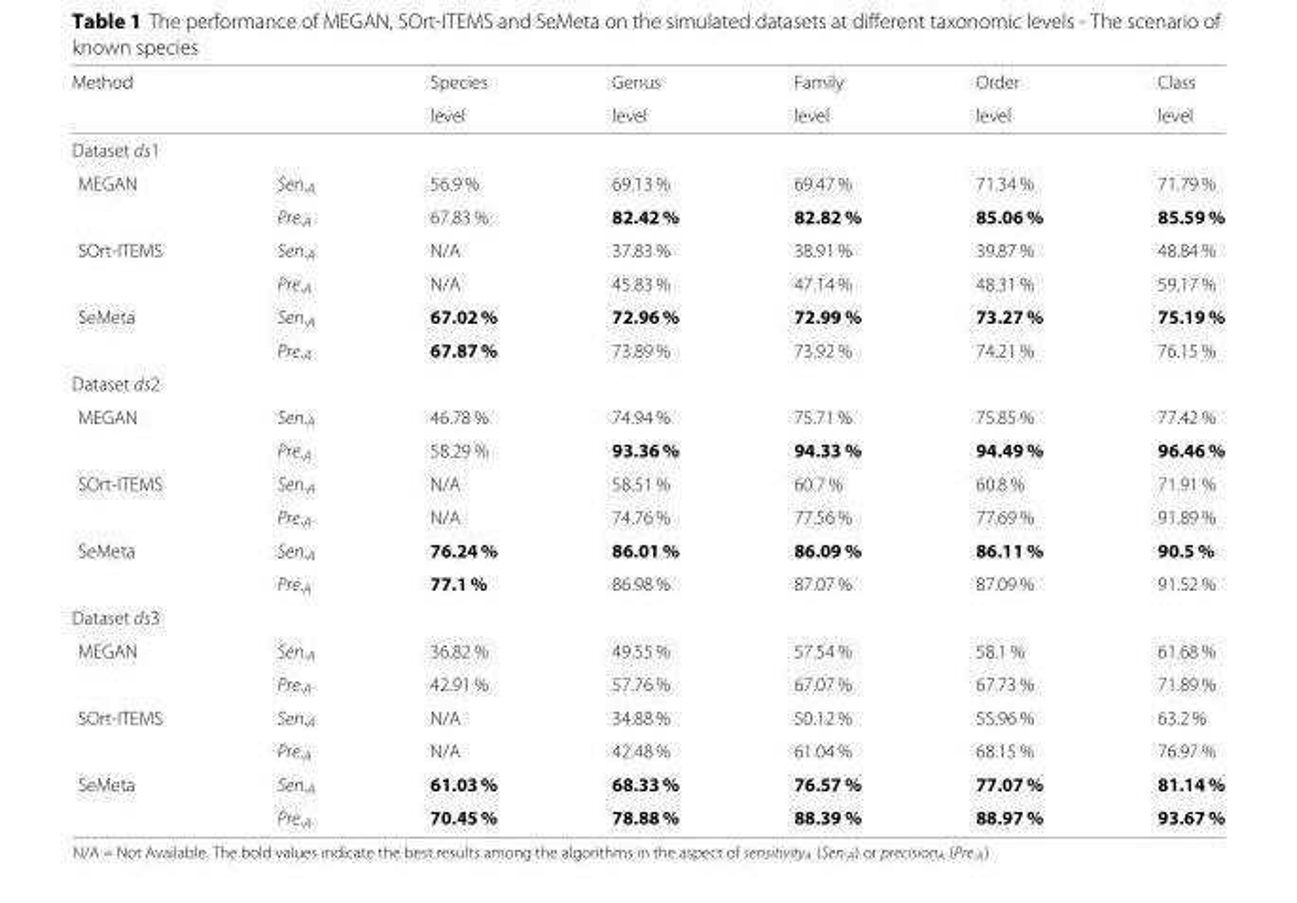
<table><thead><tr><td rowspan="2">Method</td><td rowspan="2"></td><td rowspan="2">Species level</td><td rowspan="2">Genus level</td><td rowspan="2">Family level</td><td rowspan="2">Order level</td><td rowspan="2">Class level</td></tr><tr></tr></thead><tbody><tr><td colspan="7">Dataset ds1</td></tr><tr><td rowspan="2">MEGAN</td><td>Sen.<sub>A</sub></td><td>56.9 %</td><td>69.13 %</td><td>69.47 %</td><td>71.34 %</td><td>71.79 %</td></tr><tr><td>Pre.<sub>A</sub></td><td>67.83 %</td><td>82.42 %</td><td>82.82 %</td><td>85.06 %</td><td>85.59 %</td></tr><tr><td rowspan="2">SOrt-ITEMS</td><td>Sen.<sub>A</sub></td><td>N/A</td><td>37.83 %</td><td>38.91 %</td><td>39.87 %</td><td>48.84 %</td></tr><tr><td>Pre.<sub>A</sub></td><td>N/A</td><td>45.83 %</td><td>47.14 %</td><td>48.31 %</td><td>59.17 %</td></tr><tr><td rowspan="2">SeMeta</td><td>Sen.<sub>A</sub></td><td>67.02 %</td><td>72.96 %</td><td>72.99 %</td><td>73.27 %</td><td>75.19 %</td></tr><tr><td>Pre.<sub>A</sub></td><td>67.87 %</td><td>73.89 %</td><td>73.92 %</td><td>74.21 %</td><td>76.15 %</td></tr><tr><td colspan="7">Dataset ds2</td></tr><tr><td rowspan="2">MEGAN</td><td>Sen.<sub>A</sub></td><td>46.78 %</td><td>74.94 %</td><td>75.71 %</td><td>75.85 %</td><td>77.42 %</td></tr><tr><td>Pre.<sub>A</sub></td><td>58.29 %</td><td>93.36 %</td><td>94.33 %</td><td>94.49 %</td><td>96.46 %</td></tr><tr><td rowspan="2">SOrt-ITEMS</td><td>Sen.<sub>A</sub></td><td>N/A</td><td>58.51 %</td><td>60.7 %</td><td>60.8 %</td><td>71.91 %</td></tr><tr><td>Pre.<sub>A</sub></td><td>N/A</td><td>74.76 %</td><td>77.56 %</td><td>77.69 %</td><td>91.89 %</td></tr><tr><td rowspan="2">SeMeta</td><td>Sen.<sub>A</sub></td><td>76.24 %</td><td>86.01 %</td><td>86.09 %</td><td>86.11 %</td><td>90.5 %</td></tr><tr><td>Pre.<sub>A</sub></td><td>77.1 %</td><td>86.98 %</td><td>87.07 %</td><td>87.09 %</td><td>91.52 %</td></tr><tr><td colspan="7">Dataset ds3</td></tr><tr><td rowspan="2">MEGAN</td><td>Sen.<sub>A</sub></td><td>36.82 %</td><td>49.55 %</td><td>57.54 %</td><td>58.1 %</td><td>61.68 %</td></tr><tr><td>Pre.<sub>A</sub></td><td>42.91 %</td><td>57.76 %</td><td>67.07 %</td><td>67.73 %</td><td>71.89 %</td></tr><tr><td rowspan="2">SOrt-ITEMS</td><td>Sen.<sub>A</sub></td><td>N/A</td><td>34.88 %</td><td>50.12 %</td><td>55.96 %</td><td>63.2 %</td></tr><tr><td>Pre.<sub>A</sub></td><td>N/A</td><td>42.48 %</td><td>61.04 %</td><td>68.15 %</td><td>76.97 %</td></tr><tr><td rowspan="2">SeMeta</td><td>Sen.<sub>A</sub></td><td>61.03 %</td><td>68.33 %</td><td>76.57 %</td><td>77.07 %</td><td>81.14 %</td></tr><tr><td>Pre.<sub>A</sub></td><td>70.45 %</td><td>78.88 %</td><td>88.39 %</td><td>88.97 %</td><td>93.67 %</td></tr></tbody></table>